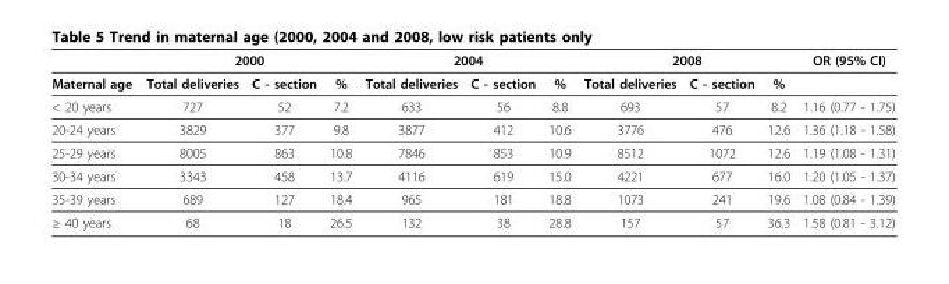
<table><thead><tr><td rowspan="2">Maternal age</td><td colspan="3">2000</td><td colspan="3">2004</td><td colspan="3">2008</td><td rowspan="2">OR (95% CI)</td></tr><tr><td>Total deliveries</td><td>C - section</td><td>%</td><td>Total deliveries</td><td>C - section</td><td>%</td><td>Total deliveries</td><td>C - section</td><td>%</td></tr></thead><tbody><tr><td>&lt; 20 years</td><td>727</td><td>52</td><td>7.2</td><td>633</td><td>56</td><td>8.8</td><td>693</td><td>57</td><td>8.2</td><td>1.16 (0.77 - 1.75)</td></tr><tr><td>20-24 years</td><td>3829</td><td>377</td><td>9.8</td><td>3877</td><td>412</td><td>10.6</td><td>3776</td><td>476</td><td>12.6</td><td>1.36 (1.18 - 1.58)</td></tr><tr><td>25-29 years</td><td>8005</td><td>863</td><td>10.8</td><td>7846</td><td>853</td><td>10.9</td><td>8512</td><td>1072</td><td>12.6</td><td>1.19 (1.08 - 1.31)</td></tr><tr><td>30-34 years</td><td>3343</td><td>458</td><td>13.7</td><td>4116</td><td>619</td><td>15.0</td><td>4221</td><td>677</td><td>16.0</td><td>1.20 (1.05 - 1.37)</td></tr><tr><td>35-39 years</td><td>689</td><td>127</td><td>18.4</td><td>965</td><td>181</td><td>18.8</td><td>1073</td><td>241</td><td>19.6</td><td>1.08 (0.84 - 1.39)</td></tr><tr><td>≥ 40 years</td><td>68</td><td>18</td><td>26.5</td><td>132</td><td>38</td><td>28.8</td><td>157</td><td>57</td><td>36.3</td><td>1.58 (0.81 - 3.12)</td></tr></tbody></table>